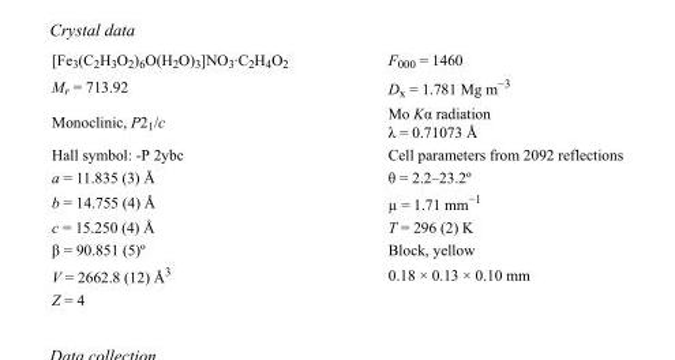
<table><tbody><tr><td>[Fe<sub>3</sub>(C<sub>2</sub>H<sub>3</sub>O<sub>2</sub>)<sub>6</sub>O(H<sub>2</sub>O)<sub>3</sub>]NO<sub>3</sub>·C<sub>2</sub>H<sub>4</sub>O<sub>2</sub></td><td>F<sub>000</sub> = 1460</td></tr><tr><td>M<sub>r</sub> = 713.92</td><td>D<sub>x</sub> = 1.781 Mg m<sup>−3</sup></td></tr><tr><td>Monoclinic, P2<sub>1</sub>/c</td><td>Mo Kα radiation λ = 0.71073 Å</td></tr><tr><td>Hall symbol: -P 2ybc</td><td>Cell parameters from 2092 reflections</td></tr><tr><td>a = 11.835 (3) Å</td><td>θ = 2.2–23.2º</td></tr><tr><td>b = 14.755 (4) Å</td><td>µ = 1.71 mm<sup>−1</sup></td></tr><tr><td>c = 15.250 (4) Å</td><td>T = 296 (2) K</td></tr><tr><td>β = 90.851 (5)º</td><td>Block, yellow</td></tr><tr><td>V = 2662.8 (12) Å<sup>3</sup></td><td>0.18 × 0.13 × 0.10 mm</td></tr><tr><td>Z = 4</td><td></td></tr></tbody></table>